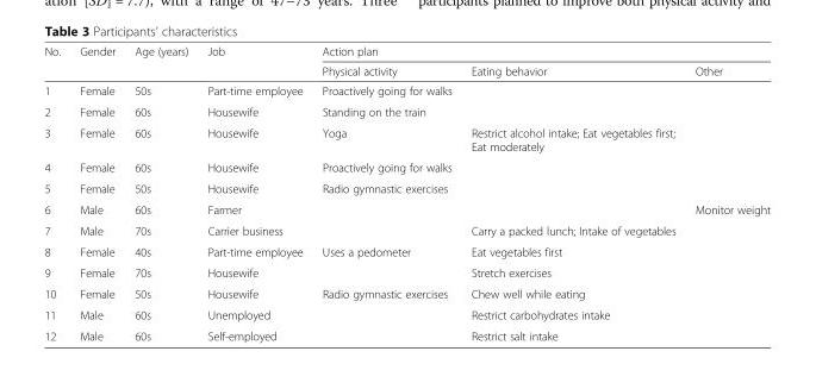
<table><thead><tr><td rowspan="2">No.</td><td rowspan="2">Gender</td><td rowspan="2">Age (years)</td><td rowspan="2">Job</td><td colspan="3">Action plan</td></tr><tr><td>Physical activity</td><td>Eating behavior</td><td>Other</td></tr></thead><tbody><tr><td>1</td><td>Female</td><td>50s</td><td>Part-time employee</td><td>Proactively going for walks</td><td colspan="2"></td></tr><tr><td>2</td><td>Female</td><td>60s</td><td>Housewife</td><td>Standing on the train</td><td colspan="2"></td></tr><tr><td>3</td><td>Female</td><td>60s</td><td>Housewife</td><td>Yoga</td><td>Restrict alcohol intake; Eat vegetables first; Eat moderately</td><td></td></tr><tr><td>4</td><td>Female</td><td>60s</td><td>Housewife</td><td>Proactively going for walks</td><td colspan="2"></td></tr><tr><td>5</td><td>Female</td><td>50s</td><td>Housewife</td><td>Radio gymnastic exercises</td><td colspan="2"></td></tr><tr><td>6</td><td>Male</td><td>60s</td><td>Farmer</td><td colspan="2"></td><td>Monitor weight</td></tr><tr><td>7</td><td>Male</td><td>70s</td><td>Carrier business</td><td></td><td>Carry a packed lunch; Intake of vegetables</td><td></td></tr><tr><td>8</td><td>Female</td><td>40s</td><td>Part-time employee</td><td>Uses a pedometer</td><td>Eat vegetables first</td><td></td></tr><tr><td>9</td><td>Female</td><td>70s</td><td>Housewife</td><td></td><td>Stretch exercises</td><td></td></tr><tr><td>10</td><td>Female</td><td>50s</td><td>Housewife</td><td>Radio gymnastic exercises</td><td>Chew well while eating</td><td></td></tr><tr><td>11</td><td>Male</td><td>60s</td><td>Unemployed</td><td></td><td>Restrict carbohydrates intake</td><td></td></tr><tr><td>12</td><td>Male</td><td>60s</td><td>Self-employed</td><td></td><td>Restrict salt intake</td><td></td></tr></tbody></table>